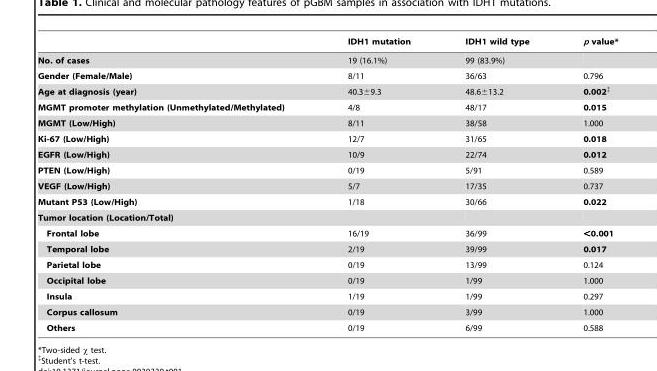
<table><thead><tr><td></td><td>IDH1 mutation</td><td>IDH1 wild type</td><td>p value*</td></tr></thead><tbody><tr><td>No. of cases</td><td>19 (16.1%)</td><td>99 (83.9%)</td><td></td></tr><tr><td>Gender (Female/Male)</td><td>8/11</td><td>36/63</td><td>0.796</td></tr><tr><td>Age at diagnosis (year)</td><td>40.3±9.3</td><td>48.6±13.2</td><td>0.002‡</td></tr><tr><td>MGMT promoter methylation (Unmethylated/Methylated)</td><td>4/8</td><td>48/17</td><td>0.015</td></tr><tr><td>MGMT (Low/High)</td><td>8/11</td><td>38/58</td><td>1.000</td></tr><tr><td>Ki-67 (Low/High)</td><td>12/7</td><td>31/65</td><td>0.018</td></tr><tr><td>EGFR (Low/High)</td><td>10/9</td><td>22/74</td><td>0.012</td></tr><tr><td>PTEN (Low/High)</td><td>0/19</td><td>5/91</td><td>0.589</td></tr><tr><td>VEGF (Low/High)</td><td>5/7</td><td>17/35</td><td>0.737</td></tr><tr><td>Mutant P53 (Low/High)</td><td>1/18</td><td>30/66</td><td>0.022</td></tr><tr><td colspan="4">Tumor location (Location/Total)</td></tr><tr><td>Frontal lobe</td><td>16/19</td><td>36/99</td><td>&lt;0.001</td></tr><tr><td>Temporal lobe</td><td>2/19</td><td>39/99</td><td>0.017</td></tr><tr><td>Parietal lobe</td><td>0/19</td><td>13/99</td><td>0.124</td></tr><tr><td>Occipital lobe</td><td>0/19</td><td>1/99</td><td>1.000</td></tr><tr><td>Insula</td><td>1/19</td><td>1/99</td><td>0.297</td></tr><tr><td>Corpus callosum</td><td>0/19</td><td>3/99</td><td>1.000</td></tr><tr><td>Others</td><td>0/19</td><td>6/99</td><td>0.588</td></tr></tbody></table>